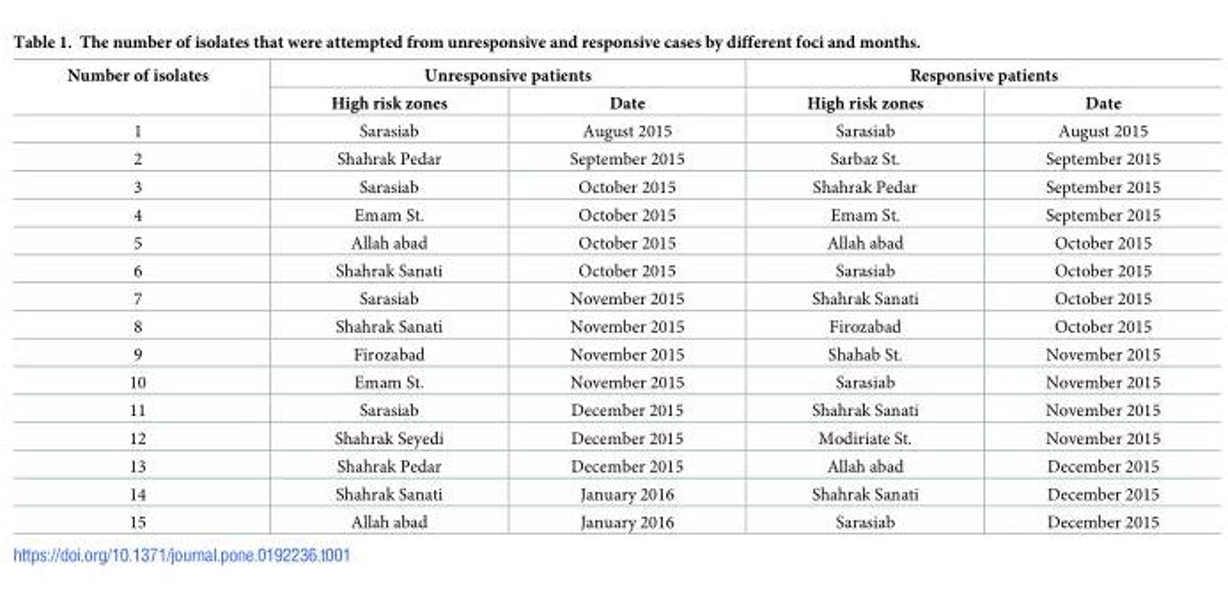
<table><thead><tr><td rowspan="2">Number of isolates</td><td colspan="2">Unresponsive patients</td><td colspan="2">Responsive patients</td></tr><tr><td>High risk zones</td><td>Date</td><td>High risk zones</td><td>Date</td></tr></thead><tbody><tr><td>1</td><td>Sarasiab</td><td>August 2015</td><td>Sarasiab</td><td>August 2015</td></tr><tr><td>2</td><td>Shahrak Pedar</td><td>September 2015</td><td>Sarbaz St.</td><td>September 2015</td></tr><tr><td>3</td><td>Sarasiab</td><td>October 2015</td><td>Shahrak Pedar</td><td>September 2015</td></tr><tr><td>4</td><td>Emam St.</td><td>October 2015</td><td>Emam St.</td><td>September 2015</td></tr><tr><td>5</td><td>Allah abad</td><td>October 2015</td><td>Allah abad</td><td>October 2015</td></tr><tr><td>6</td><td>Shahrak Sanati</td><td>October 2015</td><td>Sarasiab</td><td>October 2015</td></tr><tr><td>7</td><td>Sarasiab</td><td>November 2015</td><td>Shahrak Sanati</td><td>October 2015</td></tr><tr><td>8</td><td>Shahrak Sanati</td><td>November 2015</td><td>Firozabad</td><td>October 2015</td></tr><tr><td>9</td><td>Firozabad</td><td>November 2015</td><td>Shahab St.</td><td>November 2015</td></tr><tr><td>10</td><td>Emam St.</td><td>November 2015</td><td>Sarasiab</td><td>November 2015</td></tr><tr><td>11</td><td>Sarasiab</td><td>December 2015</td><td>Shahrak Sanati</td><td>November 2015</td></tr><tr><td>12</td><td>Shahrak Seyedi</td><td>December 2015</td><td>Modiriate St.</td><td>November 2015</td></tr><tr><td>13</td><td>Shahrak Pedar</td><td>December 2015</td><td>Allah abad</td><td>December 2015</td></tr><tr><td>14</td><td>Shahrak Sanati</td><td>January 2016</td><td>Shahrak Sanati</td><td>December 2015</td></tr><tr><td>15</td><td>Allah abad</td><td>January 2016</td><td>Sarasiab</td><td>December 2015</td></tr></tbody></table>